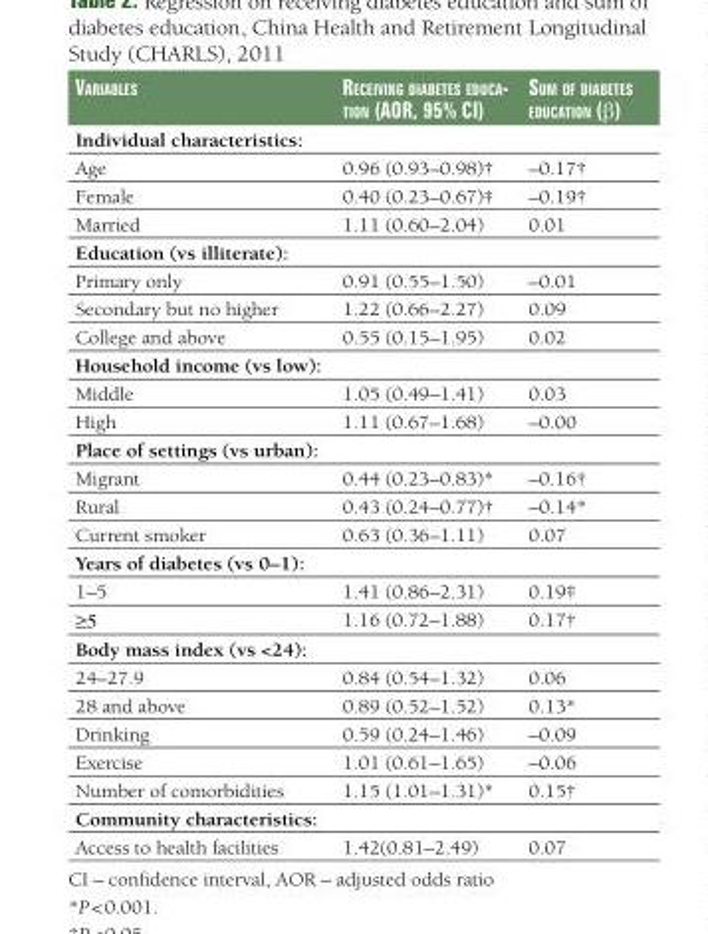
<table><thead><tr><td>Variables</td><td>receiVing Diabetes eDuca- tion (aor, 95% ci)</td><td>sum oF Diabetes eDucation (β)</td></tr></thead><tbody><tr><td colspan="3">Individual characteristics:</td></tr><tr><td>Age</td><td>0.96 (0.93–0.98)†</td><td>–0.17†</td></tr><tr><td>Female</td><td>0.40 (0.23–0.67)‡</td><td>–0.19†</td></tr><tr><td>Married</td><td>1.11 (0.60–2.04)</td><td>0.01</td></tr><tr><td colspan="3">Education (vs illiterate):</td></tr><tr><td>Primary only</td><td>0.91 (0.55–1.50)</td><td>–0.01</td></tr><tr><td>Secondary but no higher</td><td>1.22 (0.66–2.27)</td><td>0.09</td></tr><tr><td>College and above</td><td>0.55 (0.15–1.95)</td><td>0.02</td></tr><tr><td colspan="3">Household income (vs low):</td></tr><tr><td>Middle</td><td>1.05 (0.49–1.41)</td><td>0.03</td></tr><tr><td>High</td><td>1.11 (0.67–1.68)</td><td>–0.00</td></tr><tr><td colspan="3">Place of settings (vs urban):</td></tr><tr><td>Migrant</td><td>0.44 (0.23–0.83)*</td><td>–0.16†</td></tr><tr><td>Rural</td><td>0.43 (0.24–0.77)†</td><td>–0.14*</td></tr><tr><td>Current smoker</td><td>0.63 (0.36–1.11)</td><td>0.07</td></tr><tr><td colspan="3">Years of diabetes (vs 0–1):</td></tr><tr><td>1–5</td><td>1.41 (0.86–2.31)</td><td>0.19‡</td></tr><tr><td>≥5</td><td>1.16 (0.72–1.88)</td><td>0.17†</td></tr><tr><td colspan="3">Body mass index (vs &lt;24):</td></tr><tr><td>24–27.9</td><td>0.84 (0.54–1.32)</td><td>0.06</td></tr><tr><td>28 and above</td><td>0.89 (0.52–1.52)</td><td>0.13*</td></tr><tr><td>Drinking</td><td>0.59 (0.24–1.46)</td><td>–0.09</td></tr><tr><td>Exercise</td><td>1.01 (0.61–1.65)</td><td>–0.06</td></tr><tr><td>Number of comorbidities</td><td>1.15 (1.01–1.31)*</td><td>0.15†</td></tr><tr><td colspan="3">Community characteristics:</td></tr><tr><td>Access to health facilities</td><td>1.42(0.81–2.49)</td><td>0.07</td></tr></tbody></table>